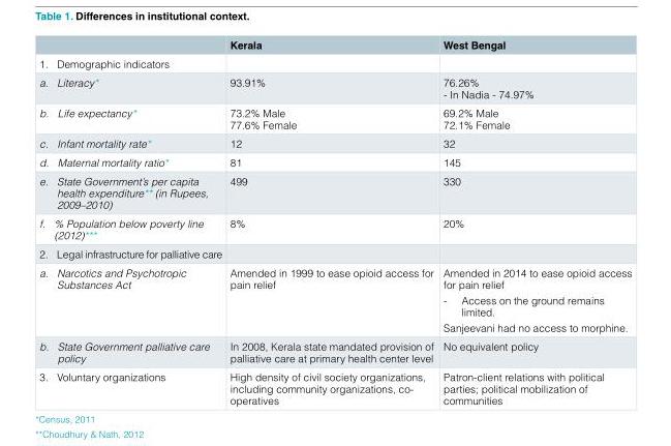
<table><thead><tr><td></td><td>Kerala</td><td>West Bengal</td></tr></thead><tbody><tr><td colspan="3">1. Demographic indicators</td></tr><tr><td>a. Literacy*</td><td>93.91%</td><td>76.26% - In Nadia - 74.97%</td></tr><tr><td>b. Life expectancy*</td><td>73.2% Male 77.6% Female</td><td>69.2% Male 72.1% Female</td></tr><tr><td>c. Infant mortality rate*</td><td>12</td><td>32</td></tr><tr><td>d. Maternal mortality ratio*</td><td>81</td><td>145</td></tr><tr><td>e. State Government’s per capita health expenditure** (in Rupees, 2009–2010)</td><td>499</td><td>330</td></tr><tr><td>f. % Population below poverty line (2012)***</td><td>8%</td><td>20%</td></tr><tr><td colspan="3">2. Legal infrastructure for palliative care</td></tr><tr><td>a. Narcotics and Psychotropic Substances Act</td><td>Amended in 1999 to ease opioid access for pain relief</td><td>Amended in 2014 to ease opioid access for pain relief - Access on the ground remains limited. Sanjeevani had no access to morphine.</td></tr><tr><td>b. State Government palliative care policy</td><td>In 2008, Kerala state mandated provision of palliative care at primary health center level</td><td>No equivalent policy</td></tr><tr><td>3. Voluntary organizations</td><td>High density of civil society organizations, including community organizations, co- operatives</td><td>Patron-client relations with political parties; political mobilization of communities</td></tr></tbody></table>